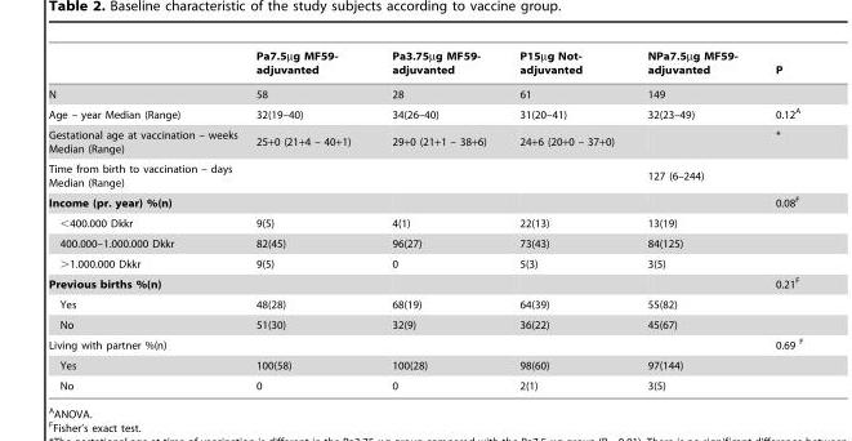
<table><thead><tr><td></td><td>Pa7.5µg MF59- adjuvanted</td><td>Pa3.75µg MF59- adjuvanted</td><td>P15µg Not- adjuvanted</td><td>NPa7.5µg MF59- adjuvanted</td><td>P</td></tr></thead><tbody><tr><td>N</td><td>58</td><td>28</td><td>61</td><td>149</td><td></td></tr><tr><td>Age – year Median (Range)</td><td>32(19–40)</td><td>34(26–40)</td><td>31(20–41)</td><td>32(23–49)</td><td>0.12<sup>A</sup></td></tr><tr><td>Gestational age at vaccination – weeks Median (Range)</td><td>25+0 (21+4 – 40+1)</td><td>29+0 (21+1 – 38+6)</td><td>24+6 (20+0 – 37+0)</td><td></td><td>*</td></tr><tr><td>Time from birth to vaccination – days Median (Range)</td><td></td><td></td><td></td><td>127 (6–244)</td><td></td></tr><tr><td>Income (pr. year) %(n)</td><td></td><td></td><td></td><td></td><td>0.08<sup>F</sup></td></tr><tr><td>&lt;400.000 Dkkr</td><td>9(5)</td><td>4(1)</td><td>22(13)</td><td>13(19)</td><td></td></tr><tr><td>400.000–1.000.000 Dkkr</td><td>82(45)</td><td>96(27)</td><td>73(43)</td><td>84(125)</td><td></td></tr><tr><td>&gt;1.000.000 Dkkr</td><td>9(5)</td><td>0</td><td>5(3)</td><td>3(5)</td><td></td></tr><tr><td>Previous births %(n)</td><td></td><td></td><td></td><td></td><td>0.21<sup>F</sup></td></tr><tr><td>Yes</td><td>48(28)</td><td>68(19)</td><td>64(39)</td><td>55(82)</td><td></td></tr><tr><td>No</td><td>51(30)</td><td>32(9)</td><td>36(22)</td><td>45(67)</td><td></td></tr><tr><td>Living with partner %(n)</td><td></td><td></td><td></td><td></td><td>0.69 F</td></tr><tr><td>Yes</td><td>100(58)</td><td>100(28)</td><td>98(60)</td><td>97(144)</td><td></td></tr><tr><td>No</td><td>0</td><td>0</td><td>2(1)</td><td>3(5)</td><td></td></tr></tbody></table>